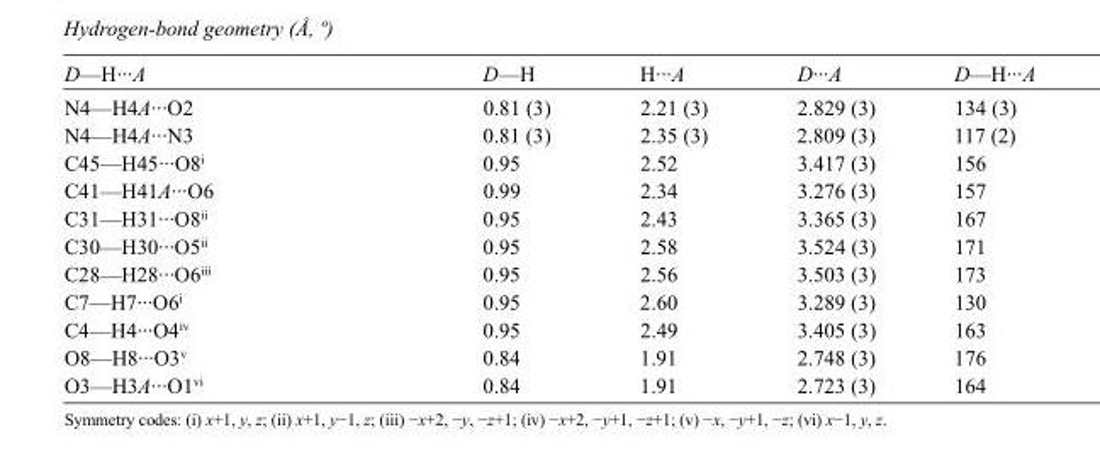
<table><tbody><tr><td>D—H···A</td><td>D—H</td><td>H···A</td><td>D···A</td><td>D—H···A</td></tr><tr><td>N4—H4A···O2</td><td>0.81 (3)</td><td>2.21 (3)</td><td>2.829 (3)</td><td>134 (3)</td></tr><tr><td>N4—H4A···N3</td><td>0.81 (3)</td><td>2.35 (3)</td><td>2.809 (3)</td><td>117 (2)</td></tr><tr><td>C45—H45···O8<sup>i</sup></td><td>0.95</td><td>2.52</td><td>3.417 (3)</td><td>156</td></tr><tr><td>C41—H41A···O6</td><td>0.99</td><td>2.34</td><td>3.276 (3)</td><td>157</td></tr><tr><td>C31—H31···O8<sup>ii</sup></td><td>0.95</td><td>2.43</td><td>3.365 (3)</td><td>167</td></tr><tr><td>C30—H30···O5<sup>ii</sup></td><td>0.95</td><td>2.58</td><td>3.524 (3)</td><td>171</td></tr><tr><td>C28—H28···O6<sup>iii</sup></td><td>0.95</td><td>2.56</td><td>3.503 (3)</td><td>173</td></tr><tr><td>C7—H7···O6<sup>i</sup></td><td>0.95</td><td>2.60</td><td>3.289 (3)</td><td>130</td></tr><tr><td>C4—H4···O4<sup>iv</sup></td><td>0.95</td><td>2.49</td><td>3.405 (3)</td><td>163</td></tr><tr><td>O8—H8···O3<sup>v</sup></td><td>0.84</td><td>1.91</td><td>2.748 (3)</td><td>176</td></tr><tr><td>O3—H3A···O1<sup>vi</sup></td><td>0.84</td><td>1.91</td><td>2.723 (3)</td><td>164</td></tr></tbody></table>